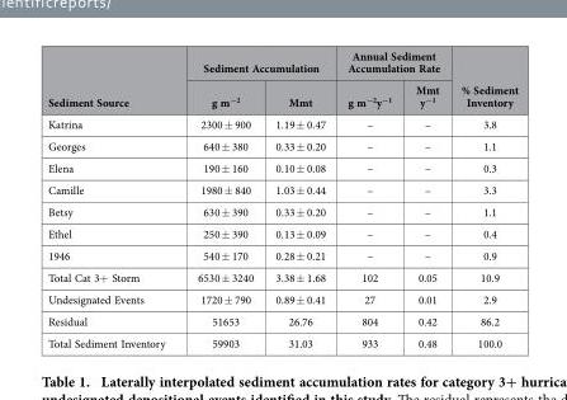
<table><thead><tr><td rowspan="2">Sediment Source</td><td colspan="2">Sediment Accumulation</td><td colspan="2">Annual Sediment Accumulation Rate</td><td rowspan="2">% Sediment Inventory</td></tr><tr><td>g m<sup>−2</sup></td><td>Mmt</td><td>g m<sup>−2</sup>y<sup>−1</sup></td><td>Mmt y<sup>−1</sup></td></tr></thead><tbody><tr><td>Katrina</td><td>2300 ± 900</td><td>1.19 ± 0.47</td><td>–</td><td>–</td><td>3.8</td></tr><tr><td>Georges</td><td>640 ± 380</td><td>0.33 ± 0.20</td><td>–</td><td>–</td><td>1.1</td></tr><tr><td>Elena</td><td>190 ± 160</td><td>0.10 ± 0.08</td><td>–</td><td>–</td><td>0.3</td></tr><tr><td>Camille</td><td>1980 ± 840</td><td>1.03 ± 0.44</td><td>–</td><td>–</td><td>3.3</td></tr><tr><td>Betsy</td><td>630 ± 390</td><td>0.33 ± 0.20</td><td>–</td><td>–</td><td>1.1</td></tr><tr><td>Ethel</td><td>250 ± 390</td><td>0.13 ± 0.09</td><td>–</td><td>–</td><td>0.4</td></tr><tr><td>1946</td><td>540 ± 170</td><td>0.28 ± 0.21</td><td>–</td><td>–</td><td>0.9</td></tr><tr><td>Total Cat 3+ Storm</td><td>6530 ± 3240</td><td>3.38 ± 1.68</td><td>102</td><td>0.05</td><td>10.9</td></tr><tr><td>Undesignated Events</td><td>1720 ± 790</td><td>0.89 ± 0.41</td><td>27</td><td>0.01</td><td>2.9</td></tr><tr><td>Residual</td><td>51653</td><td>26.76</td><td>804</td><td>0.42</td><td>86.2</td></tr><tr><td>Total Sediment Inventory</td><td>59903</td><td>31.03</td><td>933</td><td>0.48</td><td>100.0</td></tr></tbody></table>